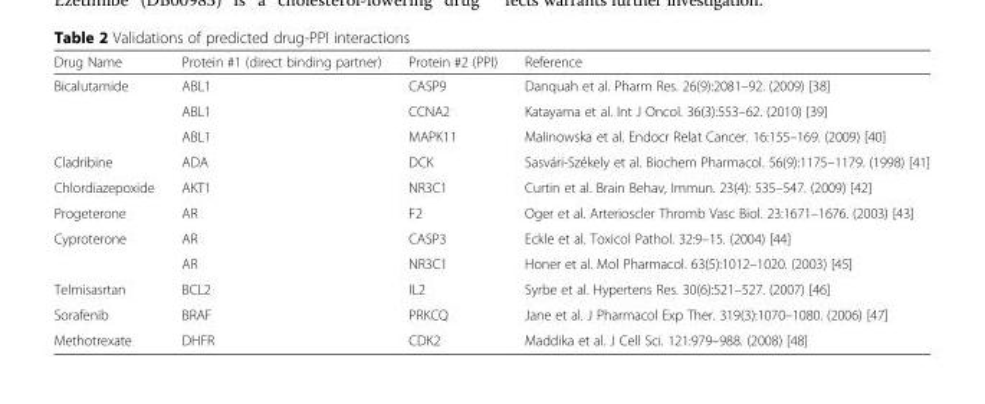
<table><thead><tr><td>Drug Name</td><td>Protein #1 (direct binding partner)</td><td>Protein #2 (PPI)</td><td>Reference</td></tr></thead><tbody><tr><td rowspan="3">Bicalutamide</td><td>ABL1</td><td>CASP9</td><td>Danquah et al. Pharm Res. 26(9):2081–92. (2009) [38]</td></tr><tr><td>ABL1</td><td>CCNA2</td><td>Katayama et al. Int J Oncol. 36(3):553–62. (2010) [39]</td></tr><tr><td>ABL1</td><td>MAPK11</td><td>Malinowska et al. Endocr Relat Cancer. 16:155–169. (2009) [40]</td></tr><tr><td>Cladribine</td><td>ADA</td><td>DCK</td><td>Sasvári-Székely et al. Biochem Pharmacol. 56(9):1175–1179. (1998) [41]</td></tr><tr><td>Chlordiazepoxide</td><td>AKT1</td><td>NR3C1</td><td>Curtin et al. Brain Behav, Immun. 23(4): 535–547. (2009) [42]</td></tr><tr><td>Progeterone</td><td>AR</td><td>F2</td><td>Oger et al. Arterioscler Thromb Vasc Biol. 23:1671–1676. (2003) [43]</td></tr><tr><td rowspan="2">Cyproterone</td><td>AR</td><td>CASP3</td><td>Eckle et al. Toxicol Pathol. 32:9–15. (2004) [44]</td></tr><tr><td>AR</td><td>NR3C1</td><td>Honer et al. Mol Pharmacol. 63(5):1012–1020. (2003) [45]</td></tr><tr><td>Telmisasrtan</td><td>BCL2</td><td>IL2</td><td>Syrbe et al. Hypertens Res. 30(6):521–527. (2007) [46]</td></tr><tr><td>Sorafenib</td><td>BRAF</td><td>PRKCQ</td><td>Jane et al. J Pharmacol Exp Ther. 319(3):1070–1080. (2006) [47]</td></tr><tr><td>Methotrexate</td><td>DHFR</td><td>CDK2</td><td>Maddika et al. J Cell Sci. 121:979–988. (2008) [48]</td></tr></tbody></table>